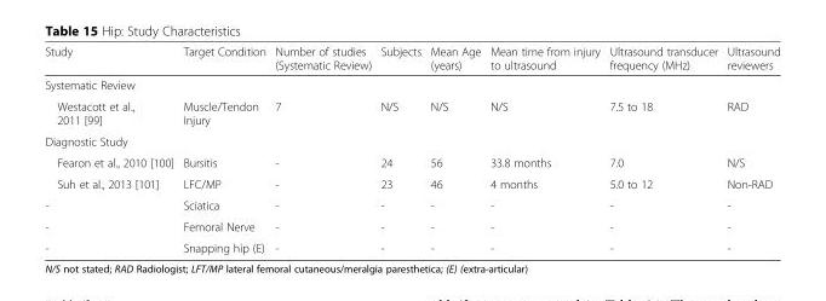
<table><thead><tr><td>Study</td><td>Target Condition</td><td>Number of studies (Systematic Review)</td><td>Subjects</td><td>Mean Age (years)</td><td>Mean time from injury to ultrasound</td><td>Ultrasound transducer frequency (MHz)</td><td>Ultrasound reviewers</td></tr></thead><tbody><tr><td colspan="8">Systematic Review</td></tr><tr><td>Westacott et al., 2011 [99]</td><td>Muscle/Tendon Injury</td><td>7</td><td>N/S</td><td>N/S</td><td>N/S</td><td>7.5 to 18</td><td>RAD</td></tr><tr><td colspan="8">Diagnostic Study</td></tr><tr><td>Fearon et al., 2010 [100]</td><td>Bursitis</td><td>-</td><td>24</td><td>56</td><td>33.8 months</td><td>7.0</td><td>N/S</td></tr><tr><td>Suh et al., 2013 [101]</td><td>LFC/MP</td><td>-</td><td>23</td><td>46</td><td>4 months</td><td>5.0 to 12</td><td>Non-RAD</td></tr><tr><td>-</td><td>Sciatica</td><td>-</td><td>-</td><td>-</td><td>-</td><td>-</td><td>-</td></tr><tr><td>-</td><td>Femoral Nerve</td><td>-</td><td>-</td><td>-</td><td>-</td><td>-</td><td>-</td></tr><tr><td>-</td><td>Snapping hip (E)</td><td>-</td><td>-</td><td>-</td><td>-</td><td>-</td><td>-</td></tr></tbody></table>